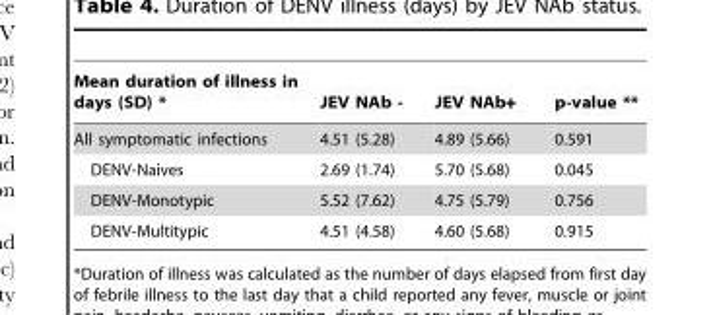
<table><thead><tr><td>Mean duration of illness in days (SD) *</td><td>JEV NAb -</td><td>JEV NAb+</td><td>p-value **</td></tr></thead><tbody><tr><td>All symptomatic infections</td><td>4.51 (5.28)</td><td>4.89 (5.66)</td><td>0.591</td></tr><tr><td>DENV-Naives</td><td>2.69 (1.74)</td><td>5.70 (5.68)</td><td>0.045</td></tr><tr><td>DENV-Monotypic</td><td>5.52 (7.62)</td><td>4.75 (5.79)</td><td>0.756</td></tr><tr><td>DENV-Multitypic</td><td>4.51 (4.58)</td><td>4.60 (5.68)</td><td>0.915</td></tr></tbody></table>